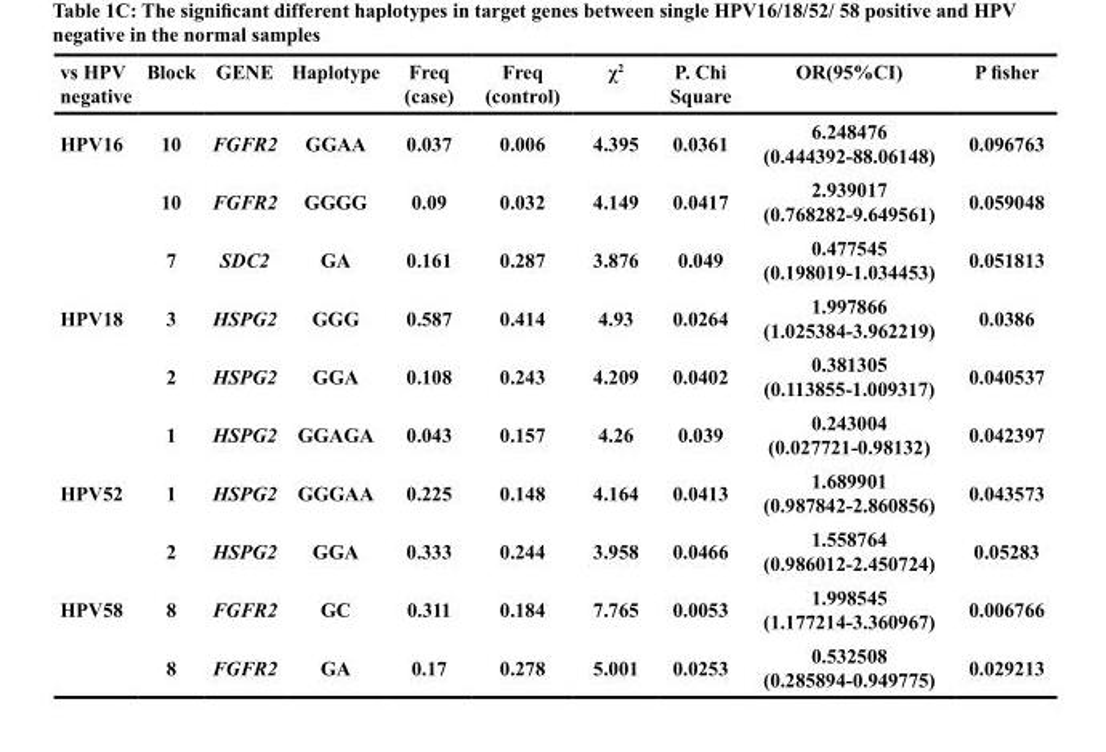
<table><thead><tr><td>vs HPV negative</td><td>Block</td><td>GENE</td><td>Haplotype</td><td>Freq (case)</td><td>Freq (control)</td><td>χ<sup>2</sup></td><td>P. Chi Square</td><td>OR(95%CI)</td><td>P fisher</td></tr></thead><tbody><tr><td rowspan="3">HPV16</td><td>10</td><td>FGFR2</td><td>GGAA</td><td>0.037</td><td>0.006</td><td>4.395</td><td>0.0361</td><td>6.248476 (0.444392-88.06148)</td><td>0.096763</td></tr><tr><td>10</td><td>FGFR2</td><td>GGGG</td><td>0.09</td><td>0.032</td><td>4.149</td><td>0.0417</td><td>2.939017 (0.768282-9.649561)</td><td>0.059048</td></tr><tr><td>7</td><td>SDC2</td><td>GA</td><td>0.161</td><td>0.287</td><td>3.876</td><td>0.049</td><td>0.477545 (0.198019-1.034453)</td><td>0.051813</td></tr><tr><td rowspan="3">HPV18</td><td>3</td><td>HSPG2</td><td>GGG</td><td>0.587</td><td>0.414</td><td>4.93</td><td>0.0264</td><td>1.997866 (1.025384-3.962219)</td><td>0.0386</td></tr><tr><td>2</td><td>HSPG2</td><td>GGA</td><td>0.108</td><td>0.243</td><td>4.209</td><td>0.0402</td><td>0.381305 (0.113855-1.009317)</td><td>0.040537</td></tr><tr><td>1</td><td>HSPG2</td><td>GGAGA</td><td>0.043</td><td>0.157</td><td>4.26</td><td>0.039</td><td>0.243004 (0.027721-0.98132)</td><td>0.042397</td></tr><tr><td rowspan="2">HPV52</td><td>1</td><td>HSPG2</td><td>GGGAA</td><td>0.225</td><td>0.148</td><td>4.164</td><td>0.0413</td><td>1.689901 (0.987842-2.860856)</td><td>0.043573</td></tr><tr><td>2</td><td>HSPG2</td><td>GGA</td><td>0.333</td><td>0.244</td><td>3.958</td><td>0.0466</td><td>1.558764 (0.986012-2.450724)</td><td>0.05283</td></tr><tr><td rowspan="2">HPV58</td><td>8</td><td>FGFR2</td><td>GC</td><td>0.311</td><td>0.184</td><td>7.765</td><td>0.0053</td><td>1.998545 (1.177214-3.360967)</td><td>0.006766</td></tr><tr><td>8</td><td>FGFR2</td><td>GA</td><td>0.17</td><td>0.278</td><td>5.001</td><td>0.0253</td><td>0.532508 (0.285894-0.949775)</td><td>0.029213</td></tr></tbody></table>